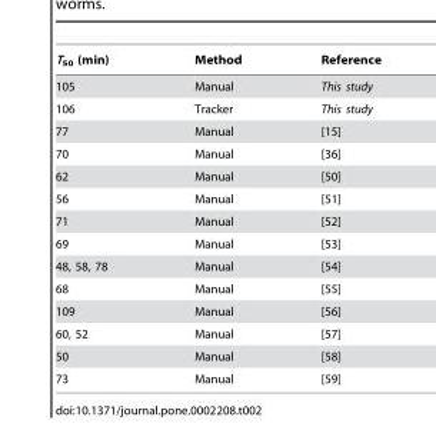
<table><thead><tr><td>T<sub>50</sub> (min)</td><td>Method</td><td>Reference</td></tr></thead><tbody><tr><td>105</td><td>Manual</td><td>This study</td></tr><tr><td>106</td><td>Tracker</td><td>This study</td></tr><tr><td>77</td><td>Manual</td><td>[15]</td></tr><tr><td>70</td><td>Manual</td><td>[36]</td></tr><tr><td>62</td><td>Manual</td><td>[50]</td></tr><tr><td>56</td><td>Manual</td><td>[51]</td></tr><tr><td>71</td><td>Manual</td><td>[52]</td></tr><tr><td>69</td><td>Manual</td><td>[53]</td></tr><tr><td>48, 58, 78</td><td>Manual</td><td>[54]</td></tr><tr><td>68</td><td>Manual</td><td>[55]</td></tr><tr><td>109</td><td>Manual</td><td>[56]</td></tr><tr><td>60, 52</td><td>Manual</td><td>[57]</td></tr><tr><td>50</td><td>Manual</td><td>[58]</td></tr><tr><td>73</td><td>Manual</td><td>[59]</td></tr></tbody></table>